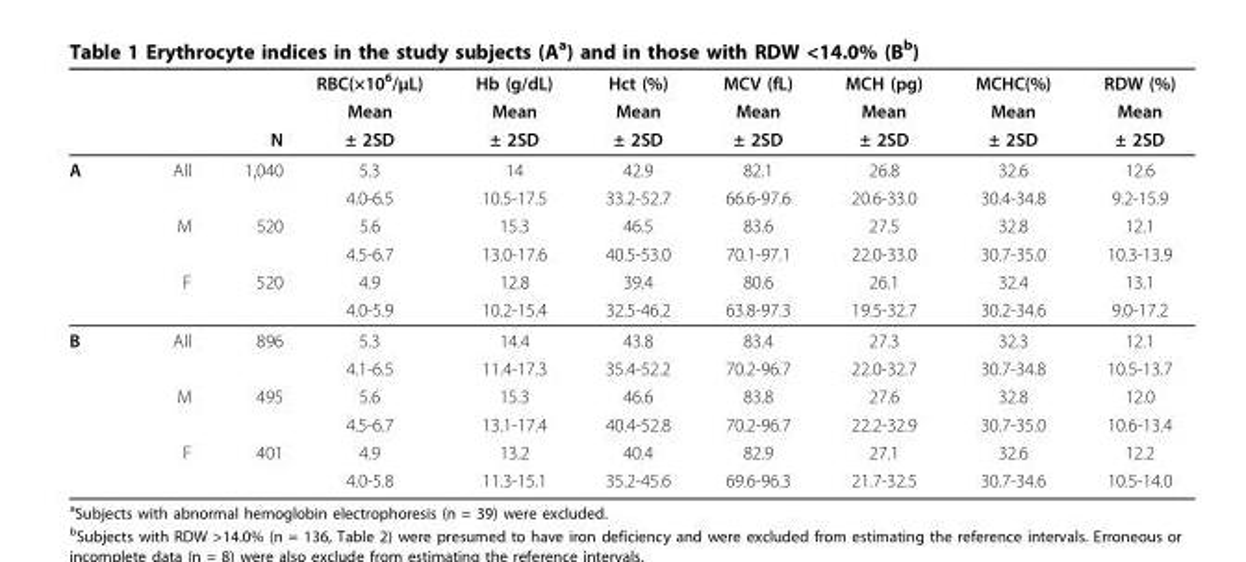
<table><thead><tr><td rowspan="3"></td><td rowspan="3"></td><td rowspan="3">N</td><td rowspan="3">RBC(×10<sup>6</sup>/μL) Mean ± 2SD</td><td rowspan="3">Hb (g/dL) Mean ± 2SD</td><td rowspan="3">Hct (%) Mean ± 2SD</td><td rowspan="3">MCV (fL) Mean ± 2SD</td><td rowspan="3">MCH (pg) Mean ± 2SD</td><td rowspan="3">MCHC(%) Mean ± 2SD</td><td rowspan="3">RDW (%) Mean ± 2SD</td></tr><tr></tr><tr></tr></thead><tbody><tr><td rowspan="6">A</td><td>All</td><td>1,040</td><td>5.3</td><td>14</td><td>42.9</td><td>82.1</td><td>26.8</td><td>32.6</td><td>12.6</td></tr><tr><td></td><td></td><td>4.0-6.5</td><td>10.5-17.5</td><td>33.2-52.7</td><td>66.6-97.6</td><td>20.6-33.0</td><td>30.4-34.8</td><td>9.2-15.9</td></tr><tr><td>M</td><td>520</td><td>5.6</td><td>15.3</td><td>46.5</td><td>83.6</td><td>27.5</td><td>32.8</td><td>12.1</td></tr><tr><td></td><td></td><td>4.5-6.7</td><td>13.0-17.6</td><td>40.5-53.0</td><td>70.1-97.1</td><td>22.0-33.0</td><td>30.7-35.0</td><td>10.3-13.9</td></tr><tr><td>F</td><td>520</td><td>4.9</td><td>12.8</td><td>39.4</td><td>80.6</td><td>26.1</td><td>32.4</td><td>13.1</td></tr><tr><td></td><td></td><td>4.0-5.9</td><td>10.2-15.4</td><td>32.5-46.2</td><td>63.8-97.3</td><td>19.5-32.7</td><td>30.2-34.6</td><td>9.0-17.2</td></tr><tr><td rowspan="6">B</td><td>All</td><td>896</td><td>5.3</td><td>14.4</td><td>43.8</td><td>83.4</td><td>27.3</td><td>32.3</td><td>12.1</td></tr><tr><td></td><td></td><td>4.1-6.5</td><td>11.4-17.3</td><td>35.4-52.2</td><td>70.2-96.7</td><td>22.0-32.7</td><td>30.7-34.8</td><td>10.5-13.7</td></tr><tr><td>M</td><td>495</td><td>5.6</td><td>15.3</td><td>46.6</td><td>83.8</td><td>27.6</td><td>32.8</td><td>12.0</td></tr><tr><td></td><td></td><td>4.5-6.7</td><td>13.1-17.4</td><td>40.4-52.8</td><td>70.2-96.7</td><td>22.2-32.9</td><td>30.7-35.0</td><td>10.6-13.4</td></tr><tr><td>F</td><td>401</td><td>4.9</td><td>13.2</td><td>40.4</td><td>82.9</td><td>27.1</td><td>32.6</td><td>12.2</td></tr><tr><td></td><td></td><td>4.0-5.8</td><td>11.3-15.1</td><td>35.2-45.6</td><td>69.6-96.3</td><td>21.7-32.5</td><td>30.7-34.6</td><td>10.5-14.0</td></tr></tbody></table>